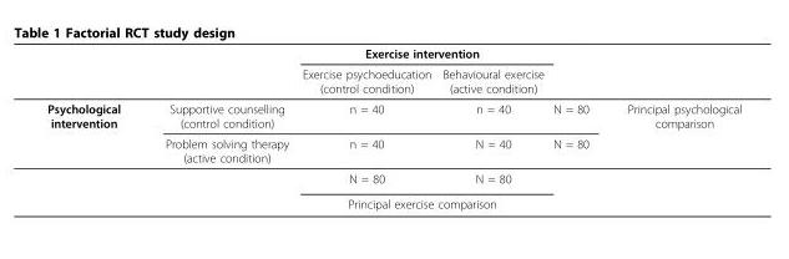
<table><thead><tr><td rowspan="2"></td><td rowspan="2"></td><td colspan="2">Exercise intervention</td><td rowspan="2"></td><td rowspan="2"></td></tr><tr><td>Exercise psychoeducation (control condition)</td><td>Behavioural exercise (active condition)</td></tr></thead><tbody><tr><td rowspan="4">Psychological intervention</td><td>Supportive counselling (control condition)</td><td>n = 40</td><td>n = 40</td><td>N = 80</td><td>Principal psychological comparison</td></tr><tr><td>Problem solving therapy (active condition)</td><td>n = 40</td><td>N = 40</td><td>N = 80</td><td></td></tr><tr><td></td><td>N = 80</td><td>N = 80</td><td colspan="2"></td></tr><tr><td></td><td colspan="2">Principal exercise comparison</td><td></td><td></td></tr></tbody></table>